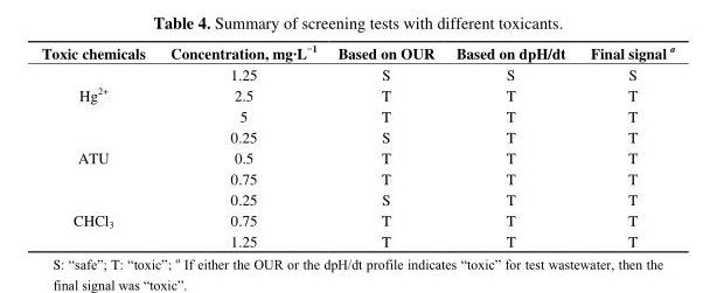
<table><thead><tr><td>Toxic chemicals</td><td>Concentration, mg·L<sup>−1</sup></td><td>Based on OUR</td><td>Based on dpH/dt</td><td>Final signal <sup>a</sup></td></tr></thead><tbody><tr><td rowspan="3">Hg<sup>2+</sup></td><td>1.25</td><td>S</td><td>S</td><td>S</td></tr><tr><td>2.5</td><td>T</td><td>T</td><td>T</td></tr><tr><td>5</td><td>T</td><td>T</td><td>T</td></tr><tr><td rowspan="3">ATU</td><td>0.25</td><td>S</td><td>T</td><td>T</td></tr><tr><td>0.5</td><td>T</td><td>T</td><td>T</td></tr><tr><td>0.75</td><td>T</td><td>T</td><td>T</td></tr><tr><td rowspan="3">CHCl<sub>3</sub></td><td>0.25</td><td>S</td><td>T</td><td>T</td></tr><tr><td>0.75</td><td>T</td><td>T</td><td>T</td></tr><tr><td>1.25</td><td>T</td><td>T</td><td>T</td></tr></tbody></table>